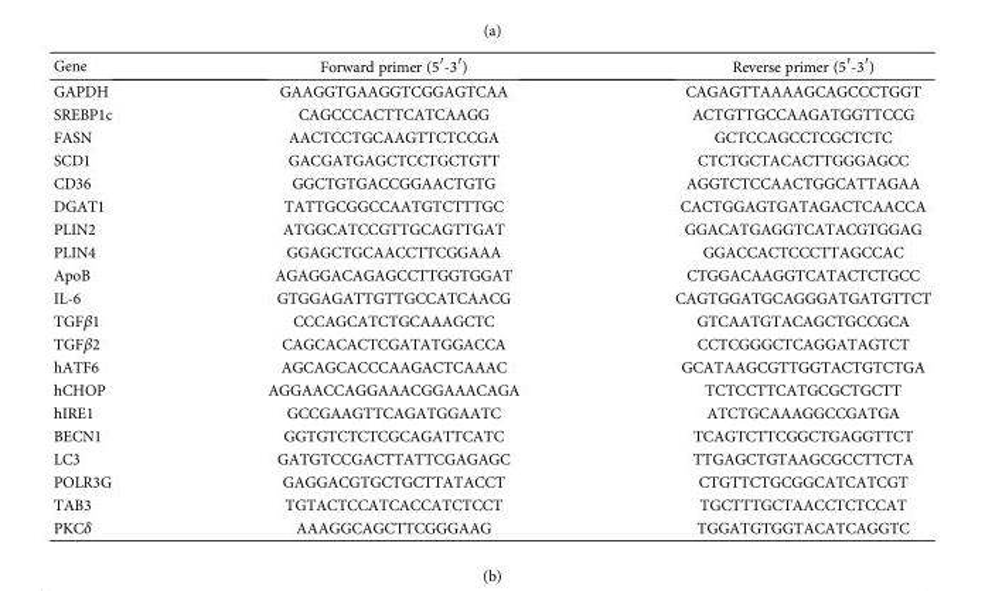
<table><thead><tr><td>Gene</td><td>Forward primer (5′-3′)</td><td>Reverse primer (5′-3′)</td></tr></thead><tbody><tr><td>GAPDH</td><td>GAAGGTGAAGGTCGGAGTCAA</td><td>CAGAGTTAAAAGCAGCCCTGGT</td></tr><tr><td>SREBP1c</td><td>CAGCCCACTTCATCAAGG</td><td>ACTGTTGCCAAGATGGTTCCG</td></tr><tr><td>FASN</td><td>AACTCCTGCAAGTTCTCCGA</td><td>GCTCCAGCCTCGCTCTC</td></tr><tr><td>SCD1</td><td>GACGATGAGCTCCTGCTGTT</td><td>CTCTGCTACACTTGGGAGCC</td></tr><tr><td>CD36</td><td>GGCTGTGACCGGAACTGTG</td><td>AGGTCTCCAACTGGCATTAGAA</td></tr><tr><td>DGAT1</td><td>TATTGCGGCCAATGTCTTTGC</td><td>CACTGGAGTGATAGACTCAACCA</td></tr><tr><td>PLIN2</td><td>ATGGCATCCGTTGCAGTTGAT</td><td>GGACATGAGGTCATACGTGGAG</td></tr><tr><td>PLIN4</td><td>GGAGCTGCAACCTTCGGAAA</td><td>GGACCACTCCCTTAGCCAC</td></tr><tr><td>ApoB</td><td>AGAGGACAGAGCCTTGGTGGAT</td><td>CTGGACAAGGTCATACTCTGCC</td></tr><tr><td>IL-6</td><td>GTGGAGATTGTTGCCATCAACG</td><td>CAGTGGATGCAGGGATGATGTTCT</td></tr><tr><td>TGFβ1</td><td>CCCAGCATCTGCAAAGCTC</td><td>GTCAATGTACAGCTGCCGCA</td></tr><tr><td>TGFβ2</td><td>CAGCACACTCGATATGGACCA</td><td>CCTCGGGCTCAGGATAGTCT</td></tr><tr><td>hATF6</td><td>AGCAGCACCCAAGACTCAAAC</td><td>GCATAAGCGTTGGTACTGTCTGA</td></tr><tr><td>hCHOP</td><td>AGGAACCAGGAAACGGAAACAGA</td><td>TCTCCTTCATGCGCTGCTT</td></tr><tr><td>hIRE1</td><td>GCCGAAGTTCAGATGGAATC</td><td>ATCTGCAAAGGCCGATGA</td></tr><tr><td>BECN1</td><td>GGTGTCTCTCGCAGATTCATC</td><td>TCAGTCTTCGGCTGAGGTTCT</td></tr><tr><td>LC3</td><td>GATGTCCGACTTATTCGAGAGC</td><td>TTGAGCTGTAAGCGCCTTCTA</td></tr><tr><td>POLR3G</td><td>GAGGACGTGCTGCTTATACCT</td><td>CTGTTCTGCGGCATCATCGT</td></tr><tr><td>TAB3</td><td>TGTACTCCATCACCATCTCCT</td><td>TGCTTTGCTAACCTCTCCAT</td></tr><tr><td>PKCδ</td><td>AAAGGCAGCTTCGGGAAG</td><td>TGGATGTGGTACATCAGGTC</td></tr></tbody></table>